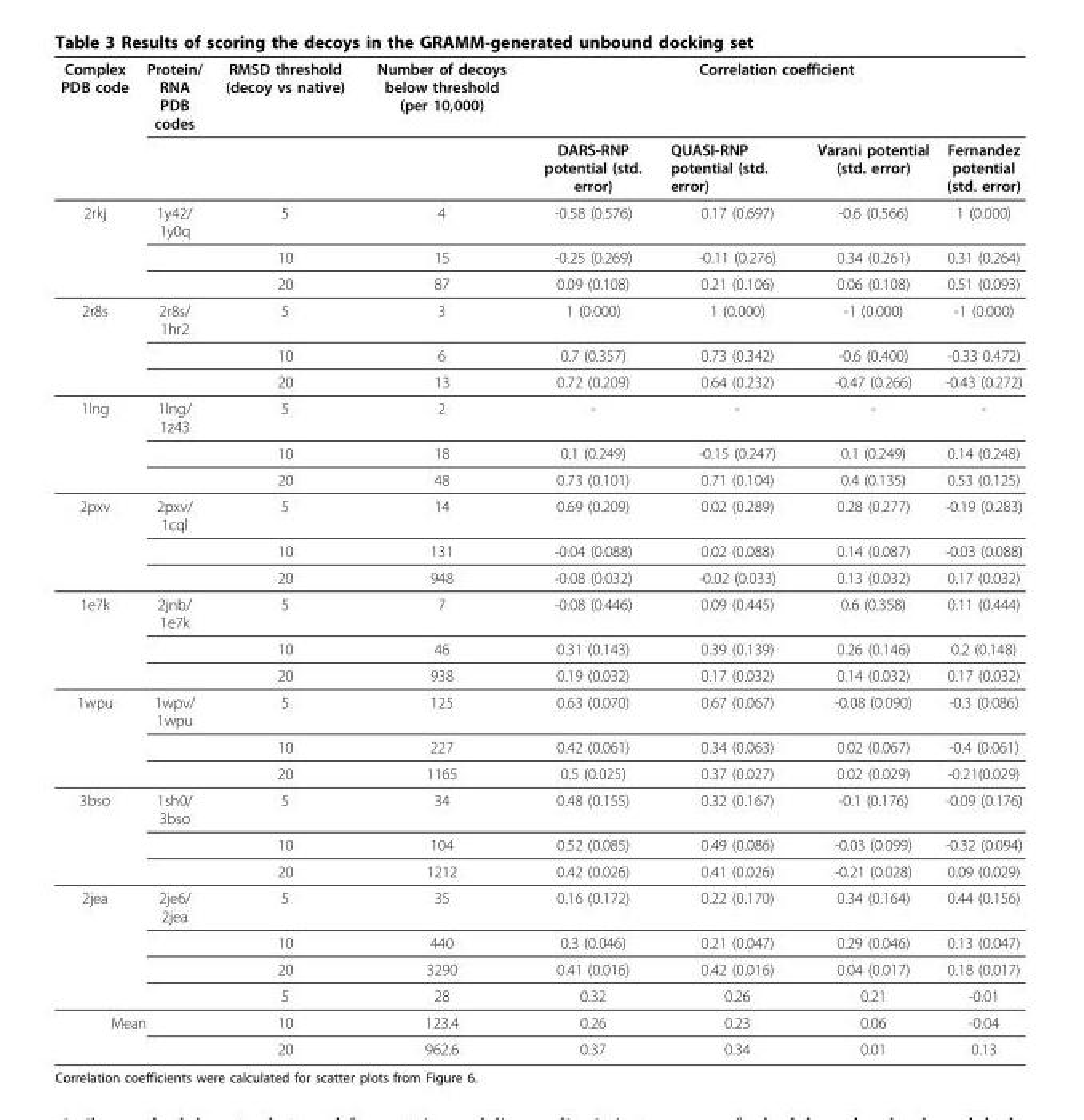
<table><thead><tr><td rowspan="2">Complex PDB code</td><td rowspan="2">Protein/ RNA PDB codes</td><td rowspan="2">RMSD threshold (decoy vs native)</td><td rowspan="2">Number of decoys below threshold (per 10,000)</td><td colspan="4">Correlation coefficient</td></tr><tr><td>DARS-RNP potential (std. error)</td><td>QUASI-RNP potential (std. error)</td><td>Varani potential (std. error)</td><td>Fernandez potential (std. error)</td></tr></thead><tbody><tr><td rowspan="3">2rkj</td><td>1y42/ 1y0q</td><td>5</td><td>4</td><td>-0.58 (0.576)</td><td>0.17 (0.697)</td><td>-0.6 (0.566)</td><td>1 (0.000)</td></tr><tr><td></td><td>10</td><td>15</td><td>-0.25 (0.269)</td><td>-0.11 (0.276)</td><td>0.34 (0.261)</td><td>0.31 (0.264)</td></tr><tr><td></td><td>20</td><td>87</td><td>0.09 (0.108)</td><td>0.21 (0.106)</td><td>0.06 (0.108)</td><td>0.51 (0.093)</td></tr><tr><td rowspan="3">2r8s</td><td>2r8s/ 1hr2</td><td>5</td><td>3</td><td>1 (0.000)</td><td>1 (0.000)</td><td>-1 (0.000)</td><td>-1 (0.000)</td></tr><tr><td></td><td>10</td><td>6</td><td>0.7 (0.357)</td><td>0.73 (0.342)</td><td>-0.6 (0.400)</td><td>-0.33 0.472)</td></tr><tr><td></td><td>20</td><td>13</td><td>0.72 (0.209)</td><td>0.64 (0.232)</td><td>-0.47 (0.266)</td><td>-0.43 (0.272)</td></tr><tr><td rowspan="3">1lng</td><td>1lng/ 1z43</td><td>5</td><td>2</td><td>-</td><td>-</td><td>-</td><td>-</td></tr><tr><td></td><td>10</td><td>18</td><td>0.1 (0.249)</td><td>-0.15 (0.247)</td><td>0.1 (0.249)</td><td>0.14 (0.248)</td></tr><tr><td></td><td>20</td><td>48</td><td>0.73 (0.101)</td><td>0.71 (0.104)</td><td>0.4 (0.135)</td><td>0.53 (0.125)</td></tr><tr><td rowspan="3">2pxv</td><td>2pxv/ 1cql</td><td>5</td><td>14</td><td>0.69 (0.209)</td><td>0.02 (0.289)</td><td>0.28 (0.277)</td><td>-0.19 (0.283)</td></tr><tr><td></td><td>10</td><td>131</td><td>-0.04 (0.088)</td><td>0.02 (0.088)</td><td>0.14 (0.087)</td><td>-0.03 (0.088)</td></tr><tr><td></td><td>20</td><td>948</td><td>-0.08 (0.032)</td><td>-0.02 (0.033)</td><td>0.13 (0.032)</td><td>0.17 (0.032)</td></tr><tr><td rowspan="3">1e7k</td><td>2jnb/ 1e7k</td><td>5</td><td>7</td><td>-0.08 (0.446)</td><td>0.09 (0.445)</td><td>0.6 (0.358)</td><td>0.11 (0.444)</td></tr><tr><td></td><td>10</td><td>46</td><td>0.31 (0.143)</td><td>0.39 (0.139)</td><td>0.26 (0.146)</td><td>0.2 (0.148)</td></tr><tr><td></td><td>20</td><td>938</td><td>0.19 (0.032)</td><td>0.17 (0.032)</td><td>0.14 (0.032)</td><td>0.17 (0.032)</td></tr><tr><td rowspan="3">1wpu</td><td>1wpv/ 1wpu</td><td>5</td><td>125</td><td>0.63 (0.070)</td><td>0.67 (0.067)</td><td>-0.08 (0.090)</td><td>-0.3 (0.086)</td></tr><tr><td></td><td>10</td><td>227</td><td>0.42 (0.061)</td><td>0.34 (0.063)</td><td>0.02 (0.067)</td><td>-0.4 (0.061)</td></tr><tr><td></td><td>20</td><td>1165</td><td>0.5 (0.025)</td><td>0.37 (0.027)</td><td>0.02 (0.029)</td><td>-0.21(0.029)</td></tr><tr><td rowspan="3">3bso</td><td>1sh0/ 3bso</td><td>5</td><td>34</td><td>0.48 (0.155)</td><td>0.32 (0.167)</td><td>-0.1 (0.176)</td><td>-0.09 (0.176)</td></tr><tr><td></td><td>10</td><td>104</td><td>0.52 (0.085)</td><td>0.49 (0.086)</td><td>-0.03 (0.099)</td><td>-0.32 (0.094)</td></tr><tr><td></td><td>20</td><td>1212</td><td>0.42 (0.026)</td><td>0.41 (0.026)</td><td>-0.21 (0.028)</td><td>0.09 (0.029)</td></tr><tr><td rowspan="4">2jea</td><td>2je6/ 2jea</td><td>5</td><td>35</td><td>0.16 (0.172)</td><td>0.22 (0.170)</td><td>0.34 (0.164)</td><td>0.44 (0.156)</td></tr><tr><td></td><td>10</td><td>440</td><td>0.3 (0.046)</td><td>0.21 (0.047)</td><td>0.29 (0.046)</td><td>0.13 (0.047)</td></tr><tr><td></td><td>20</td><td>3290</td><td>0.41 (0.016)</td><td>0.42 (0.016)</td><td>0.04 (0.017)</td><td>0.18 (0.017)</td></tr><tr><td></td><td>5</td><td>28</td><td>0.32</td><td>0.26</td><td>0.21</td><td>-0.01</td></tr><tr><td colspan="2">Mean</td><td>10</td><td>123.4</td><td>0.26</td><td>0.23</td><td>0.06</td><td>-0.04</td></tr><tr><td></td><td></td><td>20</td><td>962.6</td><td>0.37</td><td>0.34</td><td>0.01</td><td>0.13</td></tr></tbody></table>